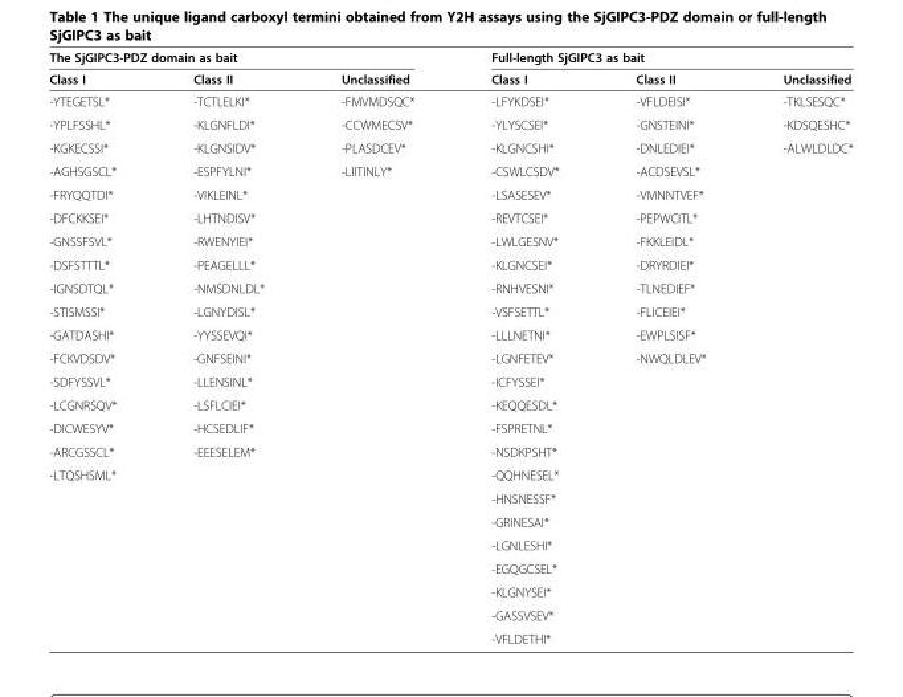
<table><thead><tr><td colspan="3">The SjGIPC3-PDZ domain as bait</td><td colspan="3">Full-length SjGIPC3 as bait</td></tr><tr><td>Class I</td><td>Class II</td><td>Unclassified</td><td>Class I</td><td>Class II</td><td>Unclassified</td></tr></thead><tbody><tr><td>-YTEGETSL*</td><td>-TCTLELKI*</td><td>-FMVMDSQC*</td><td>-LFYKDSEI*</td><td>-VFLDEISI*</td><td>-TKLSESQC*</td></tr><tr><td>-YPLFSSHL*</td><td>-KLGNFLDI*</td><td>-CCWMECSV*</td><td>-YLYSCSEI*</td><td>-GNSTEINI*</td><td>-KDSQESHC*</td></tr><tr><td>-KGKECSSI*</td><td>-KLGNSIDV*</td><td>-PLASDCEV*</td><td>-KLGNCSHI*</td><td>-DNLEDIEI*</td><td>-ALWLDLDC*</td></tr><tr><td>-AGHSGSCL*</td><td>-ESPFYLNI*</td><td>-LIITINLY*</td><td>-CSWLCSDV*</td><td>-ACDSEVSL*</td><td></td></tr><tr><td>-FRYQQTDI*</td><td>-VIKLEINL*</td><td></td><td>-LSASESEV*</td><td>-VMNNTVEF*</td><td></td></tr><tr><td>-DFCKKSEI*</td><td>-LHTNDISV*</td><td></td><td>-REVTCSEI*</td><td>-PEPWCITL*</td><td></td></tr><tr><td>-GNSSFSVL*</td><td>-RWENYIEI*</td><td></td><td>-LWLGESNV*</td><td>-FKKLEIDL*</td><td></td></tr><tr><td>-DSFSTTTL*</td><td>-PEAGELLL*</td><td></td><td>-KLGNCSEI*</td><td>-DRYRDIEI*</td><td></td></tr><tr><td>-IGNSDTQL*</td><td>-NMSDNLDL*</td><td></td><td>-RNHVESNI*</td><td>-TLNEDIEF*</td><td></td></tr><tr><td>-STISMSSI*</td><td>-LGNYDISL*</td><td></td><td>-VSFSETTL*</td><td>-FLICEIEI*</td><td></td></tr><tr><td>-GATDASHI*</td><td>-YYSSEVQI*</td><td></td><td>-LLLNETNI*</td><td>-EWPLSISF*</td><td></td></tr><tr><td>-FCKVDSDV*</td><td>-GNFSEINI*</td><td></td><td>-LGNFETEV*</td><td>-NWQLDLEV*</td><td></td></tr><tr><td>-SDFYSSVL*</td><td>-LLENSINL*</td><td></td><td>-ICFYSSEI*</td><td></td><td></td></tr><tr><td>-LCGNRSQV*</td><td>-LSFLCIEI*</td><td></td><td>-KEQQESDL*</td><td></td><td></td></tr><tr><td>-DICWESYV*</td><td>-HCSEDLIF*</td><td></td><td>-FSPRETNL*</td><td></td><td></td></tr><tr><td>-ARCGSSCL*</td><td>-EEESELEM*</td><td></td><td>-NSDKPSHT*</td><td></td><td></td></tr><tr><td rowspan="8">-LTQSHSML*</td><td></td><td></td><td>-QQHNESEL*</td><td></td><td></td></tr><tr><td></td><td></td><td>-HNSNESSF*</td><td></td><td></td></tr><tr><td></td><td></td><td>-GRINESAI*</td><td></td><td></td></tr><tr><td></td><td></td><td>-LGNLESHI*</td><td></td><td></td></tr><tr><td></td><td></td><td>-EGQGCSEL*</td><td></td><td></td></tr><tr><td></td><td></td><td>-KLGNYSEI*</td><td></td><td></td></tr><tr><td></td><td></td><td>-GASSVSEV*</td><td></td><td></td></tr><tr><td></td><td></td><td>-VFLDETHI*</td><td></td><td></td></tr></tbody></table>